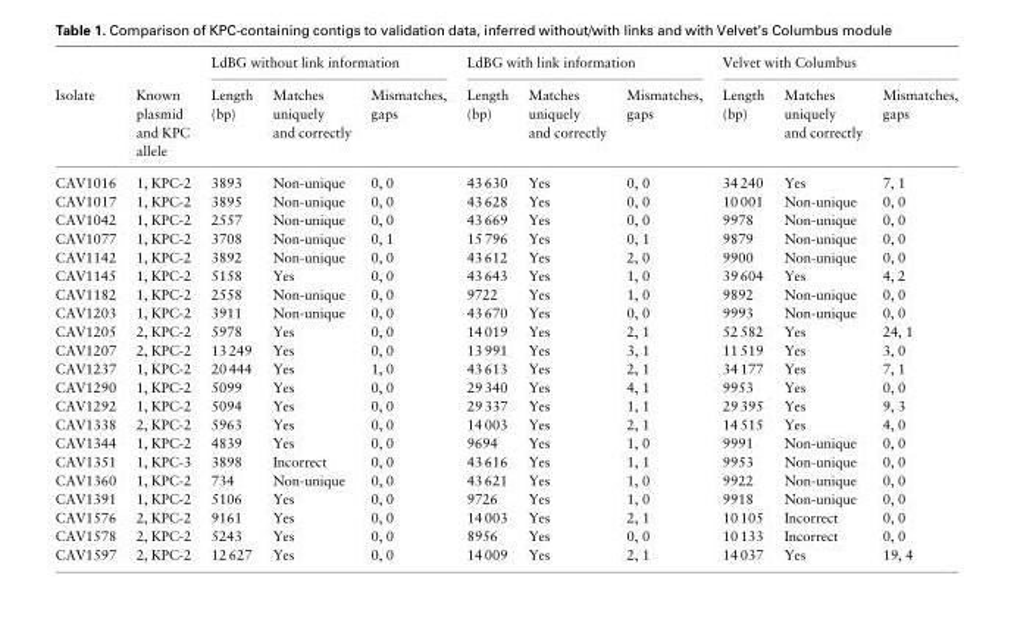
<table><thead><tr><td rowspan="2">Isolate</td><td rowspan="2">Known plasmid and KPC allele</td><td colspan="3">LdBG without link information</td><td colspan="3">LdBG with link information</td><td colspan="3">Velvet with Columbus</td></tr><tr><td>Length (bp)</td><td>Matches uniquely and correctly</td><td>Mismatches, gaps</td><td>Length (bp)</td><td>Matches uniquely and correctly</td><td>Mismatches, gaps</td><td>Length (bp)</td><td>Matches uniquely and correctly</td><td>Mismatches, gaps</td></tr></thead><tbody><tr><td>CAV1016</td><td>1, KPC-2</td><td>3893</td><td>Non-unique</td><td>0, 0</td><td>43 630</td><td>Yes</td><td>0, 0</td><td>34 240</td><td>Yes</td><td>7, 1</td></tr><tr><td>CAV1017</td><td>1, KPC-2</td><td>3895</td><td>Non-unique</td><td>0, 0</td><td>43 628</td><td>Yes</td><td>0, 0</td><td>10 001</td><td>Non-unique</td><td>0, 0</td></tr><tr><td>CAV1042</td><td>1, KPC-2</td><td>2557</td><td>Non-unique</td><td>0, 0</td><td>43 669</td><td>Yes</td><td>0, 0</td><td>9978</td><td>Non-unique</td><td>0, 0</td></tr><tr><td>CAV1077</td><td>1, KPC-2</td><td>3708</td><td>Non-unique</td><td>0, 1</td><td>15 796</td><td>Yes</td><td>0, 1</td><td>9879</td><td>Non-unique</td><td>0, 0</td></tr><tr><td>CAV1142</td><td>1, KPC-2</td><td>3892</td><td>Non-unique</td><td>0, 0</td><td>43 612</td><td>Yes</td><td>2, 0</td><td>9900</td><td>Non-unique</td><td>0, 0</td></tr><tr><td>CAV1145</td><td>1, KPC-2</td><td>5158</td><td>Yes</td><td>0, 0</td><td>43 643</td><td>Yes</td><td>1, 0</td><td>39 604</td><td>Yes</td><td>4, 2</td></tr><tr><td>CAV1182</td><td>1, KPC-2</td><td>2558</td><td>Non-unique</td><td>0, 0</td><td>9722</td><td>Yes</td><td>1, 0</td><td>9892</td><td>Non-unique</td><td>0, 0</td></tr><tr><td>CAV1203</td><td>1, KPC-2</td><td>3911</td><td>Non-unique</td><td>0, 0</td><td>43 670</td><td>Yes</td><td>0, 0</td><td>9993</td><td>Non-unique</td><td>0, 0</td></tr><tr><td>CAV1205</td><td>2, KPC-2</td><td>5978</td><td>Yes</td><td>0, 0</td><td>14 019</td><td>Yes</td><td>2, 1</td><td>52 582</td><td>Yes</td><td>24, 1</td></tr><tr><td>CAV1207</td><td>2, KPC-2</td><td>13 249</td><td>Yes</td><td>0, 0</td><td>13 991</td><td>Yes</td><td>3, 1</td><td>11 519</td><td>Yes</td><td>3, 0</td></tr><tr><td>CAV1237</td><td>1, KPC-2</td><td>20 444</td><td>Yes</td><td>1, 0</td><td>43 613</td><td>Yes</td><td>2, 1</td><td>34 177</td><td>Yes</td><td>7, 1</td></tr><tr><td>CAV1290</td><td>1, KPC-2</td><td>5099</td><td>Yes</td><td>0, 0</td><td>29 340</td><td>Yes</td><td>4, 1</td><td>9953</td><td>Yes</td><td>0, 0</td></tr><tr><td>CAV1292</td><td>1, KPC-2</td><td>5094</td><td>Yes</td><td>0, 0</td><td>29 337</td><td>Yes</td><td>1, 1</td><td>29 395</td><td>Yes</td><td>9, 3</td></tr><tr><td>CAV1338</td><td>2, KPC-2</td><td>5963</td><td>Yes</td><td>0, 0</td><td>14 003</td><td>Yes</td><td>2, 1</td><td>14 515</td><td>Yes</td><td>4, 0</td></tr><tr><td>CAV1344</td><td>1, KPC-2</td><td>4839</td><td>Yes</td><td>0, 0</td><td>9694</td><td>Yes</td><td>1, 0</td><td>9991</td><td>Non-unique</td><td>0, 0</td></tr><tr><td>CAV1351</td><td>1, KPC-3</td><td>3898</td><td>Incorrect</td><td>0, 0</td><td>43 616</td><td>Yes</td><td>1, 1</td><td>9953</td><td>Non-unique</td><td>0, 0</td></tr><tr><td>CAV1360</td><td>1, KPC-2</td><td>734</td><td>Non-unique</td><td>0, 0</td><td>43 621</td><td>Yes</td><td>1, 0</td><td>9922</td><td>Non-unique</td><td>0, 0</td></tr><tr><td>CAV1391</td><td>1, KPC-2</td><td>5106</td><td>Yes</td><td>0, 0</td><td>9726</td><td>Yes</td><td>1, 0</td><td>9918</td><td>Non-unique</td><td>0, 0</td></tr><tr><td>CAV1576</td><td>2, KPC-2</td><td>9161</td><td>Yes</td><td>0, 0</td><td>14 003</td><td>Yes</td><td>2, 1</td><td>10 105</td><td>Incorrect</td><td>0, 0</td></tr><tr><td>CAV1578</td><td>2, KPC-2</td><td>5243</td><td>Yes</td><td>0, 0</td><td>8956</td><td>Yes</td><td>0, 0</td><td>10 133</td><td>Incorrect</td><td>0, 0</td></tr><tr><td>CAV1597</td><td>2, KPC-2</td><td>12 627</td><td>Yes</td><td>0, 0</td><td>14 009</td><td>Yes</td><td>2, 1</td><td>14 037</td><td>Yes</td><td>19, 4</td></tr></tbody></table>